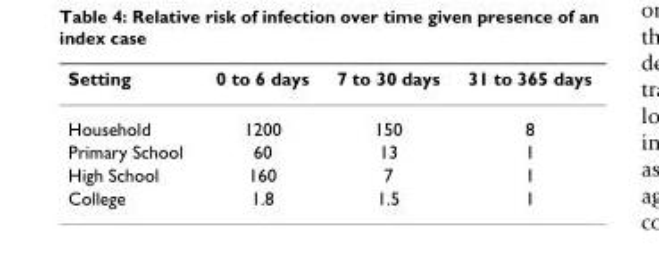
<table><thead><tr><td>Setting</td><td>0 to 6 days</td><td>7 to 30 days</td><td>31 to 365 days</td></tr></thead><tbody><tr><td>Household</td><td>1200</td><td>150</td><td>8</td></tr><tr><td>Primary School</td><td>60</td><td>13</td><td>1</td></tr><tr><td>High School</td><td>160</td><td>7</td><td>1</td></tr><tr><td>College</td><td>1.8</td><td>1.5</td><td>1</td></tr></tbody></table>